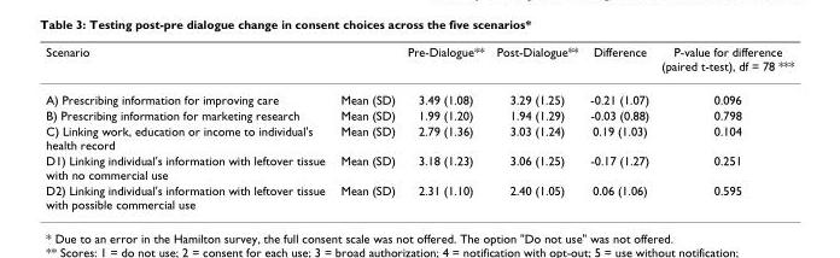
<table><thead><tr><td>Scenario</td><td></td><td>Pre-Dialogue**</td><td>Post-Dialogue**</td><td>Difference</td><td>P-value for difference (paired t-test), df = 78 ***</td></tr></thead><tbody><tr><td>A) Prescribing information for improving care</td><td>Mean (SD)</td><td>3.49 (1.08)</td><td>3.29 (1.25)</td><td>-0.21 (1.07)</td><td>0.096</td></tr><tr><td>B) Prescribing information for marketing research</td><td>Mean (SD)</td><td>1.99 (1.20)</td><td>1.94 (1.29)</td><td>-0.03 (0.88)</td><td>0.798</td></tr><tr><td>C) Linking work, education or income to individual&#x27;s health record</td><td>Mean (SD)</td><td>2.79 (1.36)</td><td>3.03 (1.24)</td><td>0.19 (1.03)</td><td>0.104</td></tr><tr><td>D1) Linking individual&#x27;s information with leftover tissue with no commercial use</td><td>Mean (SD)</td><td>3.18 (1.23)</td><td>3.06 (1.25)</td><td>-0.17 (1.27)</td><td>0.251</td></tr><tr><td>D2) Linking individual&#x27;s information with leftover tissue with possible commercial use</td><td>Mean (SD)</td><td>2.31 (1.10)</td><td>2.40 (1.05)</td><td>0.06 (1.06)</td><td>0.595</td></tr></tbody></table>